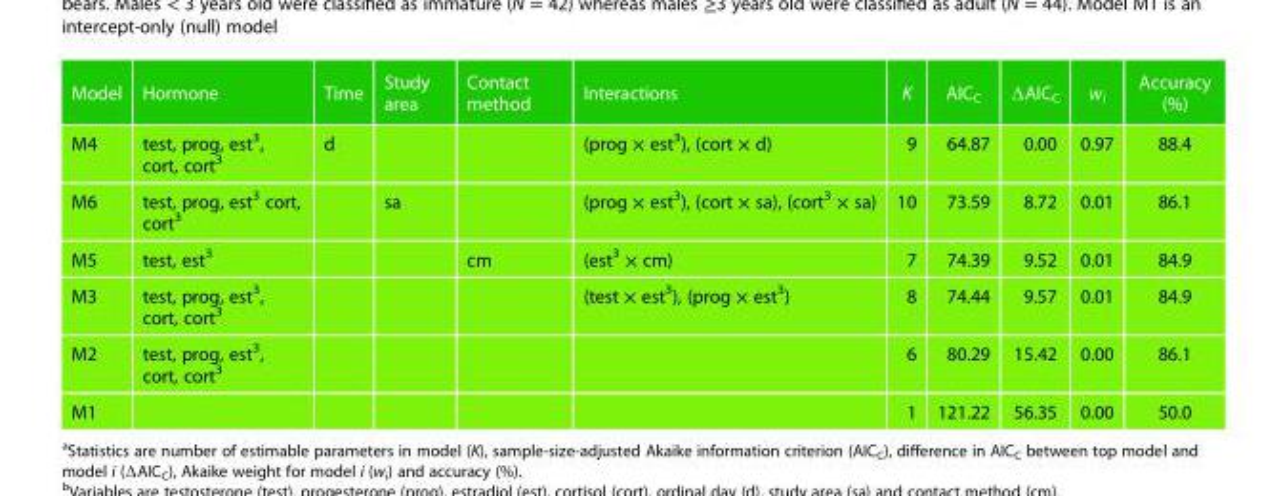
<table><thead><tr><td>Model</td><td>Hormone</td><td>Time</td><td>Study area</td><td>Contact method</td><td>Interactions</td><td>K</td><td>AIC<sub>C</sub></td><td>ΔAICC</td><td>w<sub>i</sub></td><td>Accuracy (%)</td></tr></thead><tbody><tr><td>M4</td><td>test, prog, est<sup>3</sup>, cort, cort<sup>3</sup></td><td>d</td><td></td><td></td><td>(prog × est<sup>3</sup>), (cort × d)</td><td>9</td><td>64.87</td><td>0.00</td><td>0.97</td><td>88.4</td></tr><tr><td>M6</td><td>test, prog, est<sup>3</sup> cort, cort<sup>3</sup></td><td></td><td>sa</td><td></td><td>(prog × est<sup>3</sup>), (cort × sa), (cort<sup>3</sup> × sa)</td><td>10</td><td>73.59</td><td>8.72</td><td>0.01</td><td>86.1</td></tr><tr><td>M5</td><td>test, est<sup>3</sup></td><td></td><td></td><td>cm</td><td>(est<sup>3</sup> × cm)</td><td>7</td><td>74.39</td><td>9.52</td><td>0.01</td><td>84.9</td></tr><tr><td>M3</td><td>test, prog, est<sup>3</sup>, cort, cort<sup>3</sup></td><td></td><td></td><td></td><td>(test × est<sup>3</sup>), (prog × est<sup>3</sup>)</td><td>8</td><td>74.44</td><td>9.57</td><td>0.01</td><td>84.9</td></tr><tr><td>M2</td><td>test, prog, est<sup>3</sup>, cort, cort<sup>3</sup></td><td></td><td></td><td></td><td></td><td>6</td><td>80.29</td><td>15.42</td><td>0.00</td><td>86.1</td></tr><tr><td>M1</td><td></td><td></td><td></td><td></td><td></td><td>1</td><td>121.22</td><td>56.35</td><td>0.00</td><td>50.0</td></tr></tbody></table>